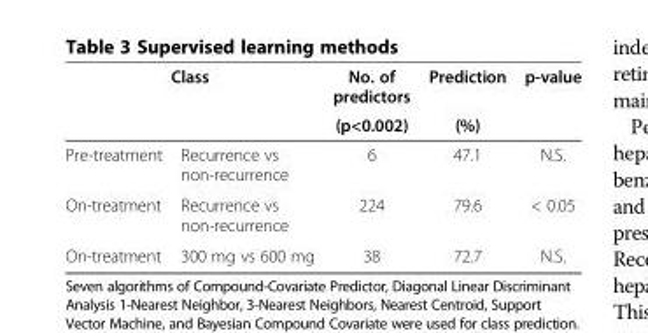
<table><thead><tr><td colspan="2">Class</td><td rowspan="2">No. of predictors (p&lt;0.002)</td><td rowspan="2">Prediction (%)</td><td rowspan="2">p-value</td></tr><tr><td></td><td></td></tr></thead><tbody><tr><td>Pre-treatment</td><td>Recurrence vs non-recurrence</td><td>6</td><td>47.1</td><td>N.S.</td></tr><tr><td>On-treatment</td><td>Recurrence vs non-recurrence</td><td>224</td><td>79.6</td><td>&lt; 0.05</td></tr><tr><td>On-treatment</td><td>300 mg vs 600 mg</td><td>38</td><td>72.7</td><td>N.S.</td></tr></tbody></table>